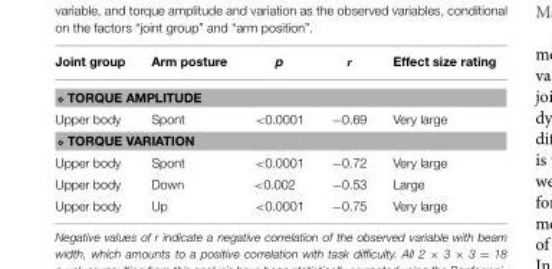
<table><thead><tr><td>Joint group</td><td>Arm posture</td><td>p</td><td>r</td><td>Effect size rating</td></tr></thead><tbody><tr><td colspan="5">⋄ TORQUE AMPLITUDE</td></tr><tr><td>Upper body</td><td>Spont</td><td>&lt;0.0001</td><td>−0.69</td><td>Very large</td></tr><tr><td colspan="5">⋄ TORQUE VARIATION</td></tr><tr><td>Upper body</td><td>Spont</td><td>&lt;0.0001</td><td>−0.72</td><td>Very large</td></tr><tr><td>Upper body</td><td>Down</td><td>&lt;0.002</td><td>−0.53</td><td>Large</td></tr><tr><td>Upper body</td><td>Up</td><td>&lt;0.0001</td><td>−0.75</td><td>Very large</td></tr></tbody></table>